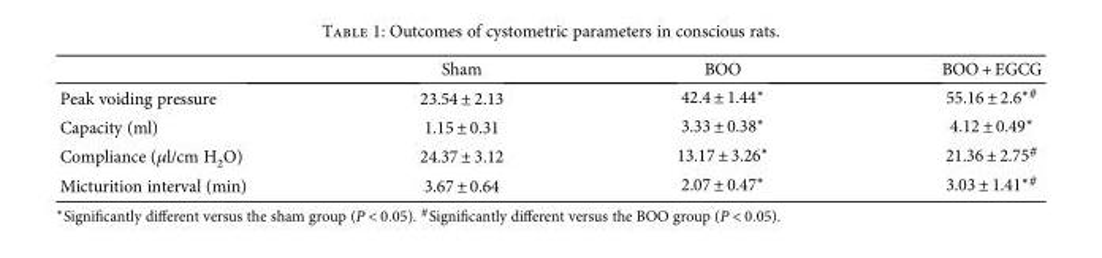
<table><thead><tr><td></td><td>Sham</td><td>BOO</td><td>BOO + EGCG</td></tr></thead><tbody><tr><td>Peak voiding pressure</td><td>23.54 ± 2.13</td><td>42.4 ± 1.44∗</td><td>55.16 ± 2.6<sup>∗#</sup></td></tr><tr><td>Capacity (ml)</td><td>1.15 ± 0.31</td><td>3.33 ± 0.38∗</td><td>4.12 ± 0.49∗</td></tr><tr><td>Compliance (μl/cm H<sub>2</sub>O)</td><td>24.37 ± 3.12</td><td>13.17 ± 3.26∗</td><td>21.36 ± 2.75<sup>#</sup></td></tr><tr><td>Micturition interval (min)</td><td>3.67 ± 0.64</td><td>2.07 ± 0.47∗</td><td>3.03 ± 1.41<sup>∗#</sup></td></tr></tbody></table>